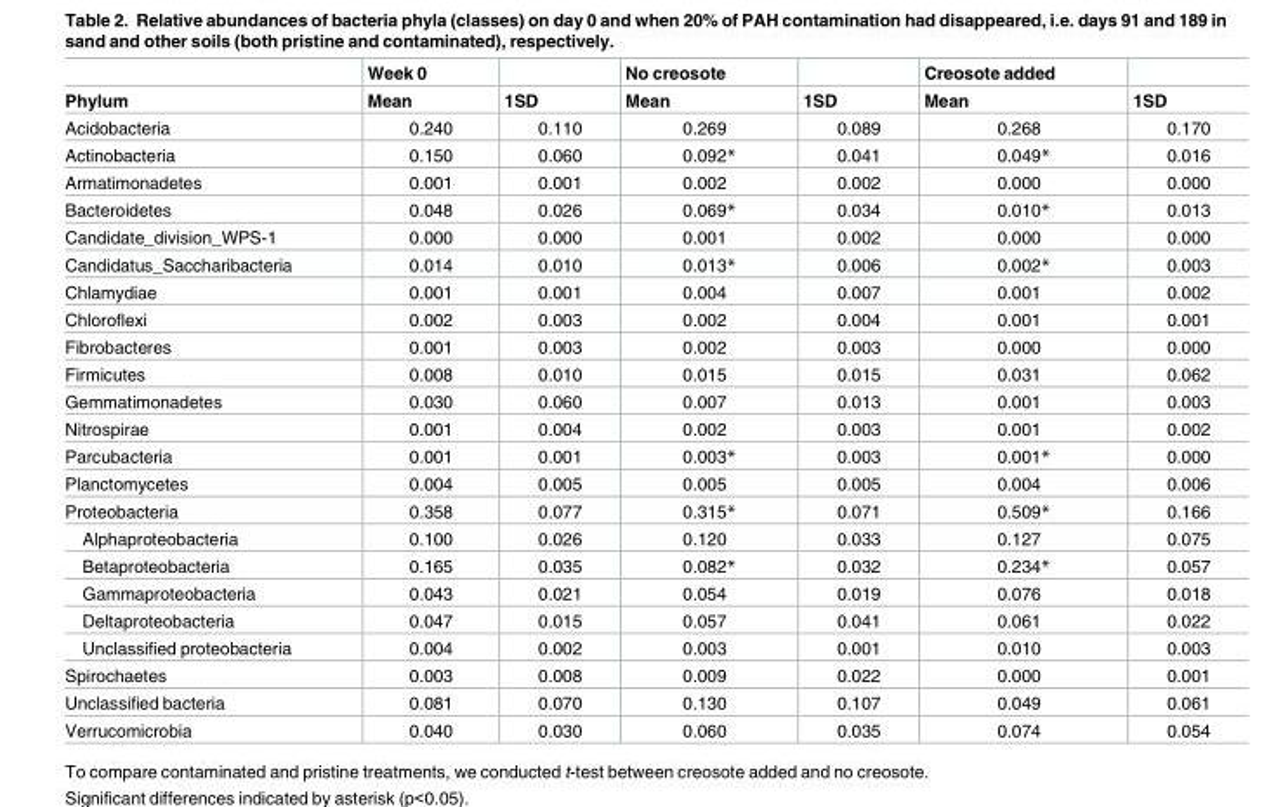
<table><thead><tr><td rowspan="2">Phylum</td><td rowspan="2">Week 0 Mean</td><td rowspan="2">1SD</td><td rowspan="2">No creosote Mean</td><td rowspan="2">1SD</td><td rowspan="2">Creosote added Mean</td><td rowspan="2">1SD</td></tr><tr></tr></thead><tbody><tr><td>Acidobacteria</td><td>0.240</td><td>0.110</td><td>0.269</td><td>0.089</td><td>0.268</td><td>0.170</td></tr><tr><td>Actinobacteria</td><td>0.150</td><td>0.060</td><td>0.092*</td><td>0.041</td><td>0.049*</td><td>0.016</td></tr><tr><td>Armatimonadetes</td><td>0.001</td><td>0.001</td><td>0.002</td><td>0.002</td><td>0.000</td><td>0.000</td></tr><tr><td>Bacteroidetes</td><td>0.048</td><td>0.026</td><td>0.069*</td><td>0.034</td><td>0.010*</td><td>0.013</td></tr><tr><td>Candidate_division_WPS-1</td><td>0.000</td><td>0.000</td><td>0.001</td><td>0.002</td><td>0.000</td><td>0.000</td></tr><tr><td>Candidatus_Saccharibacteria</td><td>0.014</td><td>0.010</td><td>0.013*</td><td>0.006</td><td>0.002*</td><td>0.003</td></tr><tr><td>Chlamydiae</td><td>0.001</td><td>0.001</td><td>0.004</td><td>0.007</td><td>0.001</td><td>0.002</td></tr><tr><td>Chloroflexi</td><td>0.002</td><td>0.003</td><td>0.002</td><td>0.004</td><td>0.001</td><td>0.001</td></tr><tr><td>Fibrobacteres</td><td>0.001</td><td>0.003</td><td>0.002</td><td>0.003</td><td>0.000</td><td>0.000</td></tr><tr><td>Firmicutes</td><td>0.008</td><td>0.010</td><td>0.015</td><td>0.015</td><td>0.031</td><td>0.062</td></tr><tr><td>Gemmatimonadetes</td><td>0.030</td><td>0.060</td><td>0.007</td><td>0.013</td><td>0.001</td><td>0.003</td></tr><tr><td>Nitrospirae</td><td>0.001</td><td>0.004</td><td>0.002</td><td>0.003</td><td>0.001</td><td>0.002</td></tr><tr><td>Parcubacteria</td><td>0.001</td><td>0.001</td><td>0.003*</td><td>0.003</td><td>0.001*</td><td>0.000</td></tr><tr><td>Planctomycetes</td><td>0.004</td><td>0.005</td><td>0.005</td><td>0.005</td><td>0.004</td><td>0.006</td></tr><tr><td>Proteobacteria</td><td>0.358</td><td>0.077</td><td>0.315*</td><td>0.071</td><td>0.509*</td><td>0.166</td></tr><tr><td>Alphaproteobacteria</td><td>0.100</td><td>0.026</td><td>0.120</td><td>0.033</td><td>0.127</td><td>0.075</td></tr><tr><td>Betaproteobacteria</td><td>0.165</td><td>0.035</td><td>0.082*</td><td>0.032</td><td>0.234*</td><td>0.057</td></tr><tr><td>Gammaproteobacteria</td><td>0.043</td><td>0.021</td><td>0.054</td><td>0.019</td><td>0.076</td><td>0.018</td></tr><tr><td>Deltaproteobacteria</td><td>0.047</td><td>0.015</td><td>0.057</td><td>0.041</td><td>0.061</td><td>0.022</td></tr><tr><td>Unclassified proteobacteria</td><td>0.004</td><td>0.002</td><td>0.003</td><td>0.001</td><td>0.010</td><td>0.003</td></tr><tr><td>Spirochaetes</td><td>0.003</td><td>0.008</td><td>0.009</td><td>0.022</td><td>0.000</td><td>0.001</td></tr><tr><td>Unclassified bacteria</td><td>0.081</td><td>0.070</td><td>0.130</td><td>0.107</td><td>0.049</td><td>0.061</td></tr><tr><td>Verrucomicrobia</td><td>0.040</td><td>0.030</td><td>0.060</td><td>0.035</td><td>0.074</td><td>0.054</td></tr></tbody></table>